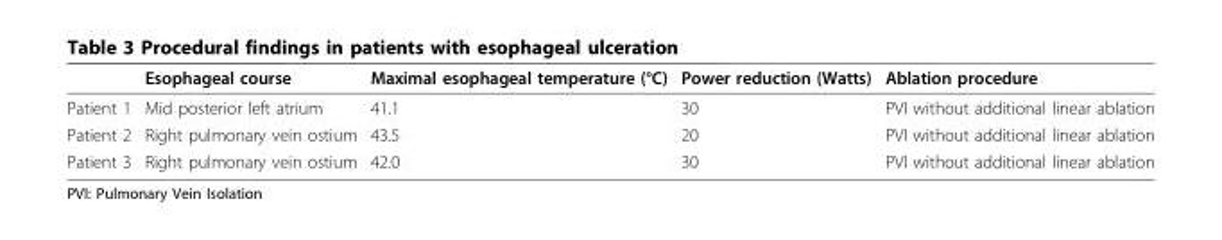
<table><thead><tr><td></td><td>Esophageal course</td><td>Maximal esophageal temperature (°C)</td><td>Power reduction (Watts)</td><td>Ablation procedure</td></tr></thead><tbody><tr><td>Patient 1</td><td>Mid posterior left atrium</td><td>41.1</td><td>30</td><td>PVI without additional linear ablation</td></tr><tr><td>Patient 2</td><td>Right pulmonary vein ostium</td><td>43.5</td><td>20</td><td>PVI without additional linear ablation</td></tr><tr><td>Patient 3</td><td>Right pulmonary vein ostium</td><td>42.0</td><td>30</td><td>PVI without additional linear ablation</td></tr></tbody></table>